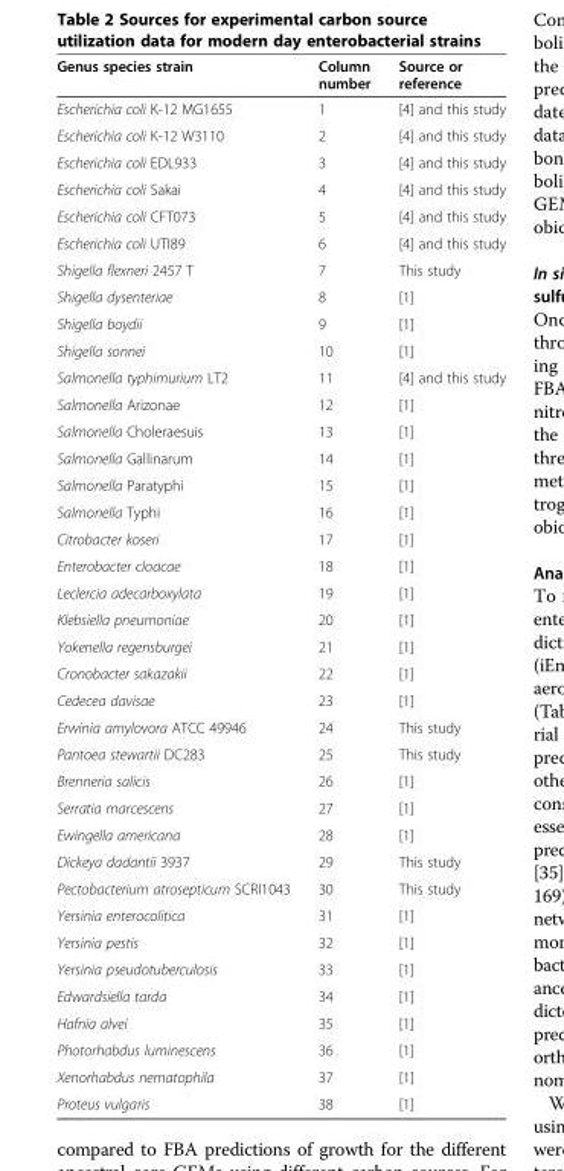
<table><thead><tr><td>Genus species strain</td><td>Column number</td><td>Source or reference</td></tr></thead><tbody><tr><td>Escherichia coli K-12 MG1655</td><td>1</td><td>[4] and this study</td></tr><tr><td>Escherichia coli K-12 W3110</td><td>2</td><td>[4] and this study</td></tr><tr><td>Escherichia coli EDL933</td><td>3</td><td>[4] and this study</td></tr><tr><td>Escherichia coli Sakai</td><td>4</td><td>[4] and this study</td></tr><tr><td>Escherichia coli CFT073</td><td>5</td><td>[4] and this study</td></tr><tr><td>Escherichia coli UTI89</td><td>6</td><td>[4] and this study</td></tr><tr><td>Shigella flexneri 2457 T</td><td>7</td><td>This study</td></tr><tr><td>Shigella dysenteriae</td><td>8</td><td>[1]</td></tr><tr><td>Shigella boydii</td><td>9</td><td>[1]</td></tr><tr><td>Shigella sonnei</td><td>10</td><td>[1]</td></tr><tr><td>Salmonella typhimurium LT2</td><td>11</td><td>[4] and this study</td></tr><tr><td>Salmonella Arizonae</td><td>12</td><td>[1]</td></tr><tr><td>Salmonella Choleraesuis</td><td>13</td><td>[1]</td></tr><tr><td>Salmonella Gallinarum</td><td>14</td><td>[1]</td></tr><tr><td>Salmonella Paratyphi</td><td>15</td><td>[1]</td></tr><tr><td>Salmonella Typhi</td><td>16</td><td>[1]</td></tr><tr><td>Citrobacter koseri</td><td>17</td><td>[1]</td></tr><tr><td>Enterobacter cloacae</td><td>18</td><td>[1]</td></tr><tr><td>Leclercia adecarboxylata</td><td>19</td><td>[1]</td></tr><tr><td>Klebsiella pneumoniae</td><td>20</td><td>[1]</td></tr><tr><td>Yokenella regensburgei</td><td>21</td><td>[1]</td></tr><tr><td>Cronobacter sakazakii</td><td>22</td><td>[1]</td></tr><tr><td>Cedecea davisae</td><td>23</td><td>[1]</td></tr><tr><td>Erwinia amylovora ATCC 49946</td><td>24</td><td>This study</td></tr><tr><td>Pantoea stewartii DC283</td><td>25</td><td>This study</td></tr><tr><td>Brenneria salicis</td><td>26</td><td>[1]</td></tr><tr><td>Serratia marcescens</td><td>27</td><td>[1]</td></tr><tr><td>Ewingella americana</td><td>28</td><td>[1]</td></tr><tr><td>Dickeya dadantii 3937</td><td>29</td><td>This study</td></tr><tr><td>Pectobacterium atrosepticum SCRI1043</td><td>30</td><td>This study</td></tr><tr><td>Yersinia enterocolitica</td><td>31</td><td>[1]</td></tr><tr><td>Yersinia pestis</td><td>32</td><td>[1]</td></tr><tr><td>Yersinia pseudotuberculosis</td><td>33</td><td>[1]</td></tr><tr><td>Edwardsiella tarda</td><td>34</td><td>[1]</td></tr><tr><td>Hafnia alvei</td><td>35</td><td>[1]</td></tr><tr><td>Photorhabdus luminescens</td><td>36</td><td>[1]</td></tr><tr><td>Xenorhabdus nematophila</td><td>37</td><td>[1]</td></tr><tr><td>Proteus vulgaris</td><td>38</td><td>[1]</td></tr></tbody></table>